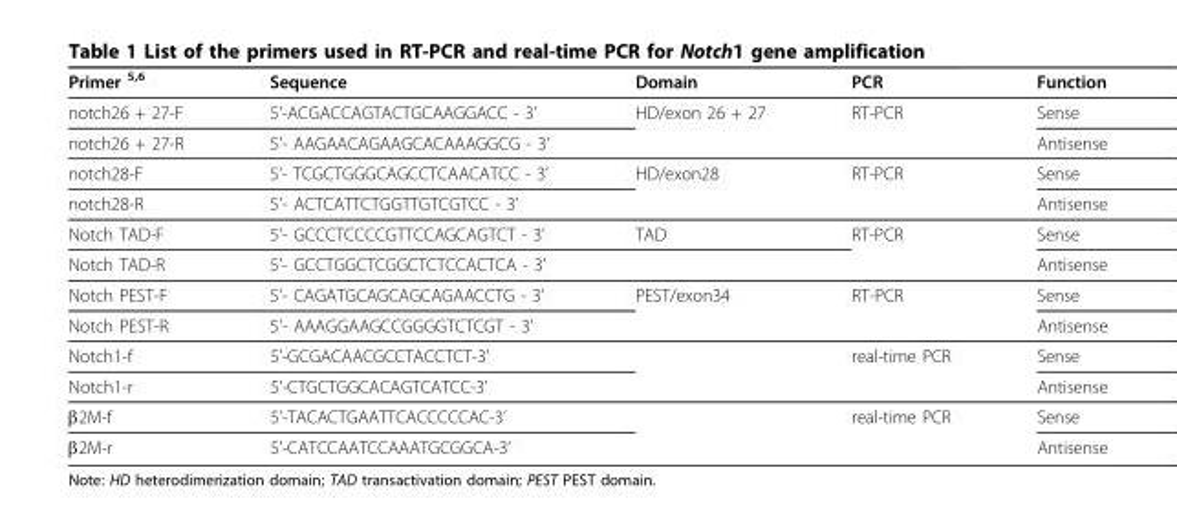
<table><thead><tr><td>Primer <sup>5,6</sup></td><td>Sequence</td><td>Domain</td><td>PCR</td><td>Function</td></tr></thead><tbody><tr><td>notch26 + 27-F</td><td>5’-ACGACCAGTACTGCAAGGACC - 3’</td><td>HD/exon 26 + 27</td><td>RT-PCR</td><td>Sense</td></tr><tr><td>notch26 + 27-R</td><td>5’- AAGAACAGAAGCACAAAGGCG - 3’</td><td></td><td></td><td>Antisense</td></tr><tr><td>notch28-F</td><td>5’- TCGCTGGGCAGCCTCAACATCC - 3’</td><td>HD/exon28</td><td>RT-PCR</td><td>Sense</td></tr><tr><td>notch28-R</td><td>5’- ACTCATTCTGGTTGTCGTCC - 3’</td><td></td><td></td><td>Antisense</td></tr><tr><td>Notch TAD-F</td><td>5’- GCCCTCCCCGTTCCAGCAGTCT - 3’</td><td>TAD</td><td>RT-PCR</td><td>Sense</td></tr><tr><td>Notch TAD-R</td><td>5’- GCCTGGCTCGGCTCTCCACTCA - 3’</td><td></td><td></td><td>Antisense</td></tr><tr><td>Notch PEST-F</td><td>5’- CAGATGCAGCAGCAGAACCTG - 3’</td><td>PEST/exon34</td><td>RT-PCR</td><td>Sense</td></tr><tr><td>Notch PEST-R</td><td>5’- AAAGGAAGCCGGGGTCTCGT - 3’</td><td></td><td></td><td>Antisense</td></tr><tr><td>Notch1-f</td><td>5’-GCGACAACGCCTACCTCT-3’</td><td></td><td>real-time PCR</td><td>Sense</td></tr><tr><td>Notch1-r</td><td>5’-CTGCTGGCACAGTCATCC-3’</td><td></td><td></td><td>Antisense</td></tr><tr><td>β2M-f</td><td>5’-TACACTGAATTCACCCCCAC-3’</td><td></td><td>real-time PCR</td><td>Sense</td></tr><tr><td>β2M-r</td><td>5’-CATCCAATCCAAATGCGGCA-3’</td><td></td><td></td><td>Antisense</td></tr></tbody></table>